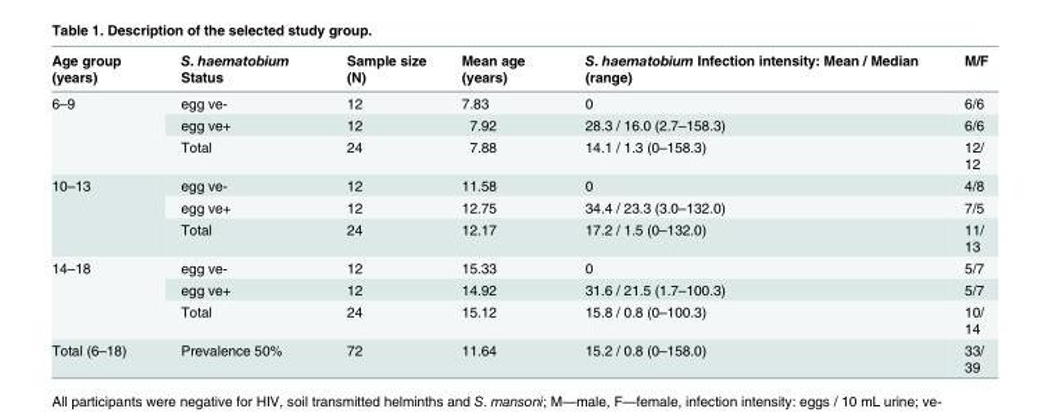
<table><thead><tr><td>Age group (years)</td><td>S. haematobium Status</td><td>Sample size (N)</td><td>Mean age (years)</td><td>S. haematobium Infection intensity: Mean / Median (range)</td><td>M/F</td></tr></thead><tbody><tr><td rowspan="3">6–9</td><td>egg ve-</td><td>12</td><td>7.83</td><td>0</td><td>6/6</td></tr><tr><td>egg ve+</td><td>12</td><td>7.92</td><td>28.3 / 16.0 (2.7–158.3)</td><td>6/6</td></tr><tr><td>Total</td><td>24</td><td>7.88</td><td>14.1 / 1.3 (0–158.3)</td><td>12/ 12</td></tr><tr><td rowspan="3">10–13</td><td>egg ve-</td><td>12</td><td>11.58</td><td>0</td><td>4/8</td></tr><tr><td>egg ve+</td><td>12</td><td>12.75</td><td>34.4 / 23.3 (3.0–132.0)</td><td>7/5</td></tr><tr><td>Total</td><td>24</td><td>12.17</td><td>17.2 / 1.5 (0–132.0)</td><td>11/ 13</td></tr><tr><td rowspan="3">14–18</td><td>egg ve-</td><td>12</td><td>15.33</td><td>0</td><td>5/7</td></tr><tr><td>egg ve+</td><td>12</td><td>14.92</td><td>31.6 / 21.5 (1.7–100.3)</td><td>5/7</td></tr><tr><td>Total</td><td>24</td><td>15.12</td><td>15.8 / 0.8 (0–100.3)</td><td>10/ 14</td></tr><tr><td>Total (6–18)</td><td>Prevalence 50%</td><td>72</td><td>11.64</td><td>15.2 / 0.8 (0–158.0)</td><td>33/</td></tr></tbody></table>